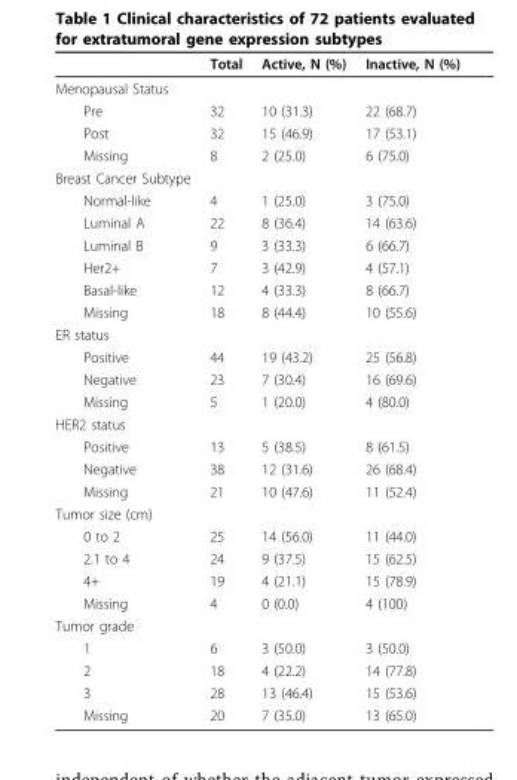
<table><thead><tr><td></td><td>Total</td><td>Active, N (%)</td><td>Inactive, N (%)</td></tr></thead><tbody><tr><td colspan="4">Menopausal Status</td></tr><tr><td>Pre</td><td>32</td><td>10 (31.3)</td><td>22 (68.7)</td></tr><tr><td>Post</td><td>32</td><td>15 (46.9)</td><td>17 (53.1)</td></tr><tr><td>Missing</td><td>8</td><td>2 (25.0)</td><td>6 (75.0)</td></tr><tr><td colspan="4">Breast Cancer Subtype</td></tr><tr><td>Normal-like</td><td>4</td><td>1 (25.0)</td><td>3 (75.0)</td></tr><tr><td>Luminal A</td><td>22</td><td>8 (36.4)</td><td>14 (63.6)</td></tr><tr><td>Luminal B</td><td>9</td><td>3 (33.3)</td><td>6 (66.7)</td></tr><tr><td>Her2+</td><td>7</td><td>3 (42.9)</td><td>4 (57.1)</td></tr><tr><td>Basal-like</td><td>12</td><td>4 (33.3)</td><td>8 (66.7)</td></tr><tr><td>Missing</td><td>18</td><td>8 (44.4)</td><td>10 (55.6)</td></tr><tr><td colspan="4">ER status</td></tr><tr><td>Positive</td><td>44</td><td>19 (43.2)</td><td>25 (56.8)</td></tr><tr><td>Negative</td><td>23</td><td>7 (30.4)</td><td>16 (69.6)</td></tr><tr><td>Missing</td><td>5</td><td>1 (20.0)</td><td>4 (80.0)</td></tr><tr><td colspan="4">HER2 status</td></tr><tr><td>Positive</td><td>13</td><td>5 (38.5)</td><td>8 (61.5)</td></tr><tr><td>Negative</td><td>38</td><td>12 (31.6)</td><td>26 (68.4)</td></tr><tr><td>Missing</td><td>21</td><td>10 (47.6)</td><td>11 (52.4)</td></tr><tr><td colspan="4">Tumor size (cm)</td></tr><tr><td>0 to 2</td><td>25</td><td>14 (56.0)</td><td>11 (44.0)</td></tr><tr><td>2.1 to 4</td><td>24</td><td>9 (37.5)</td><td>15 (62.5)</td></tr><tr><td>4+</td><td>19</td><td>4 (21.1)</td><td>15 (78.9)</td></tr><tr><td>Missing</td><td>4</td><td>0 (0.0)</td><td>4 (100)</td></tr><tr><td colspan="4">Tumor grade</td></tr><tr><td>1</td><td>6</td><td>3 (50.0)</td><td>3 (50.0)</td></tr><tr><td>2</td><td>18</td><td>4 (22.2)</td><td>14 (77.8)</td></tr><tr><td>3</td><td>28</td><td>13 (46.4)</td><td>15 (53.6)</td></tr><tr><td>Missing</td><td>20</td><td>7 (35.0)</td><td>13 (65.0)</td></tr></tbody></table>